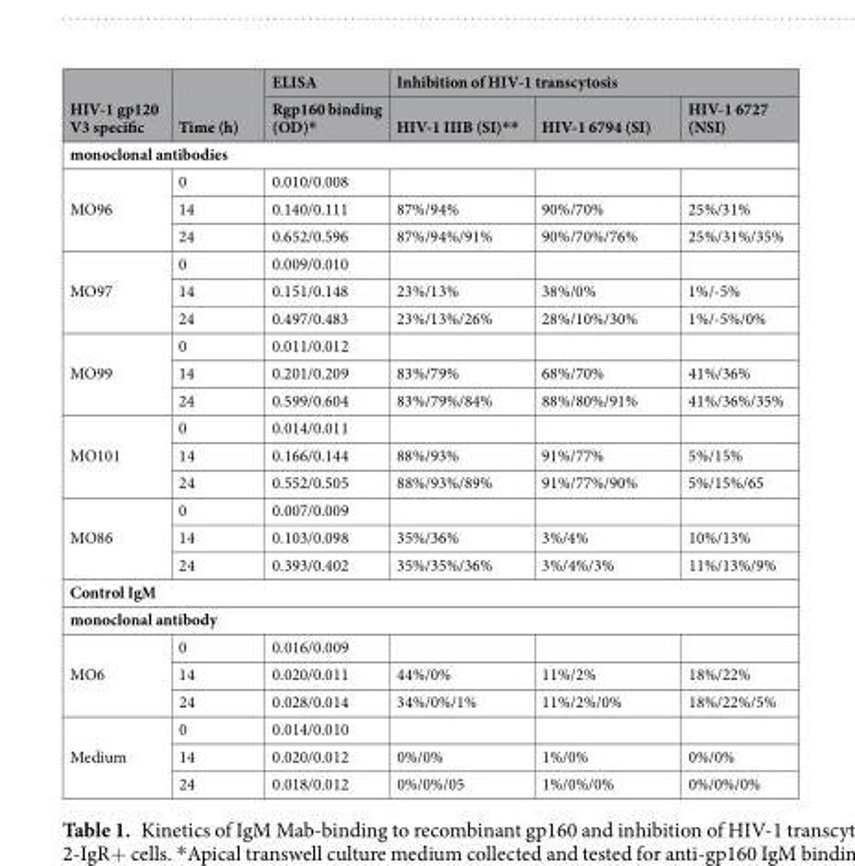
<table><thead><tr><td rowspan="2">HIV-1 gp120 V3 specific</td><td rowspan="2">Time (h)</td><td rowspan="2">ELISA Rgp160 binding (OD)*</td><td colspan="3">Inhibition of HIV-1 transcytosis</td></tr><tr><td>HIV-1 IIIB (SI)**</td><td>HIV-1 6794 (SI)</td><td>HIV-1 6727 (NSI)</td></tr></thead><tbody><tr><td colspan="6">monoclonal antibodies</td></tr><tr><td rowspan="3">MO96</td><td>0</td><td>0.010/0.008</td><td></td><td></td><td></td></tr><tr><td>14</td><td>0.140/0.111</td><td>87%/94%</td><td>90%/70%</td><td>25%/31%</td></tr><tr><td>24</td><td>0.652/0.596</td><td>87%/94%/91%</td><td>90%/70%/76%</td><td>25%/31%/35%</td></tr><tr><td rowspan="3">MO97</td><td>0</td><td>0.009/0.010</td><td></td><td></td><td></td></tr><tr><td>14</td><td>0.151/0.148</td><td>23%/13%</td><td>38%/0%</td><td>1%/-5%</td></tr><tr><td>24</td><td>0.497/0.483</td><td>23%/13%/26%</td><td>28%/10%/30%</td><td>1%/-5%/0%</td></tr><tr><td rowspan="3">MO99</td><td>0</td><td>0.011/0.012</td><td></td><td></td><td></td></tr><tr><td>14</td><td>0.201/0.209</td><td>83%/79%</td><td>68%/70%</td><td>41%/36%</td></tr><tr><td>24</td><td>0.599/0.604</td><td>83%/79%/84%</td><td>88%/80%/91%</td><td>41%/36%/35%</td></tr><tr><td rowspan="3">MO101</td><td>0</td><td>0.014/0.011</td><td></td><td></td><td></td></tr><tr><td>14</td><td>0.166/0.144</td><td>88%/93%</td><td>91%/77%</td><td>5%/15%</td></tr><tr><td>24</td><td>0.552/0.505</td><td>88%/93%/89%</td><td>91%/77%/90%</td><td>5%/15%/65</td></tr><tr><td rowspan="3">MO86</td><td>0</td><td>0.007/0.009</td><td></td><td></td><td></td></tr><tr><td>14</td><td>0.103/0.098</td><td>35%/36%</td><td>3%/4%</td><td>10%/13%</td></tr><tr><td>24</td><td>0.393/0.402</td><td>35%/35%/36%</td><td>3%/4%/3%</td><td>11%/13%/9%</td></tr><tr><td colspan="6">Control IgM</td></tr><tr><td colspan="6">monoclonal antibody</td></tr><tr><td rowspan="3">MO6</td><td>0</td><td>0.016/0.009</td><td></td><td></td><td></td></tr><tr><td>14</td><td>0.020/0.011</td><td>44%/0%</td><td>11%/2%</td><td>18%/22%</td></tr><tr><td>24</td><td>0.028/0.014</td><td>34%/0%/1%</td><td>11%/2%/0%</td><td>18%/22%/5%</td></tr><tr><td rowspan="3">Medium</td><td>0</td><td>0.014/0.010</td><td></td><td></td><td></td></tr><tr><td>14</td><td>0.020/0.012</td><td>0%/0%</td><td>1%/0%</td><td>0%/0%</td></tr><tr><td>24</td><td>0.018/0.012</td><td>0%/0%/05</td><td>1%/0%/0%</td><td>0%/0%/0%</td></tr></tbody></table>